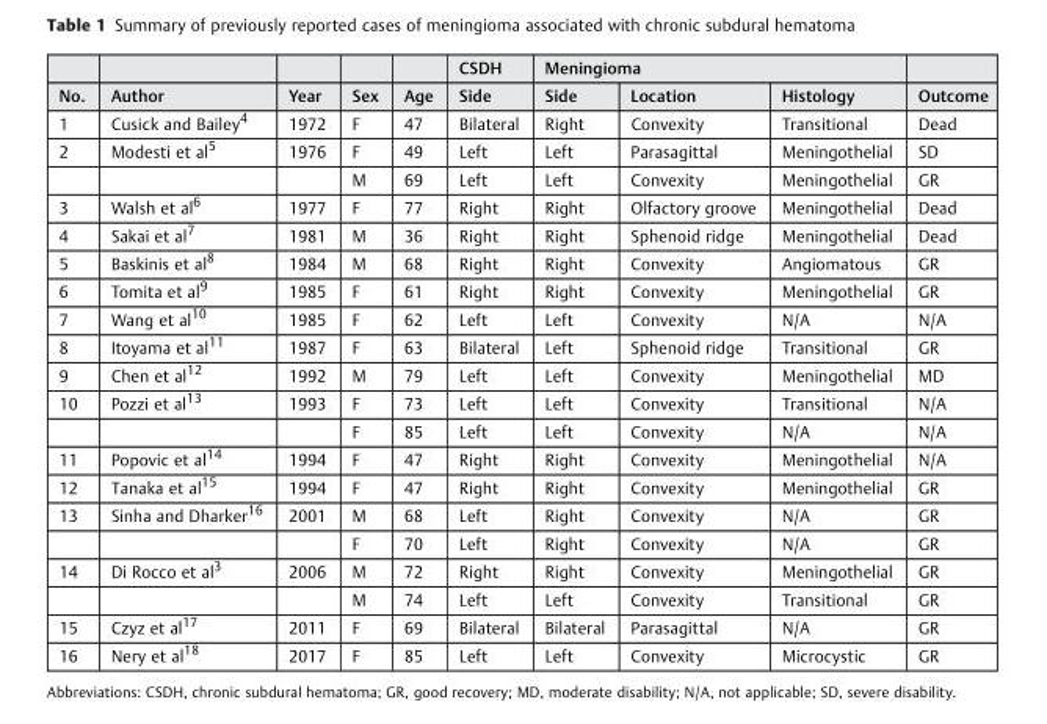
<table><thead><tr><td rowspan="2">No.</td><td rowspan="2">Author</td><td rowspan="2">Year</td><td rowspan="2">Sex</td><td rowspan="2">Age</td><td rowspan="2">CSDH Side</td><td colspan="3">Meningioma</td><td rowspan="2">Outcome</td></tr><tr><td>Side</td><td>Location</td><td>Histology</td></tr></thead><tbody><tr><td>1</td><td>Cusick and Bailey4</td><td>1972</td><td>F</td><td>47</td><td>Bilateral</td><td>Right</td><td>Convexity</td><td>Transitional</td><td>Dead</td></tr><tr><td rowspan="2">2</td><td>Modesti et al5</td><td>1976</td><td>F</td><td>49</td><td>Left</td><td>Left</td><td>Parasagittal</td><td>Meningothelial</td><td>SD</td></tr><tr><td></td><td></td><td>M</td><td>69</td><td>Left</td><td>Left</td><td>Convexity</td><td>Meningothelial</td><td>GR</td></tr><tr><td>3</td><td>Walsh et al6</td><td>1977</td><td>F</td><td>77</td><td>Right</td><td>Right</td><td>Olfactory groove</td><td>Meningothelial</td><td>Dead</td></tr><tr><td>4</td><td>Sakai et al7</td><td>1981</td><td>M</td><td>36</td><td>Right</td><td>Right</td><td>Sphenoid ridge</td><td>Meningothelial</td><td>Dead</td></tr><tr><td>5</td><td>Baskinis et al8</td><td>1984</td><td>M</td><td>68</td><td>Right</td><td>Right</td><td>Convexity</td><td>Angiomatous</td><td>GR</td></tr><tr><td>6</td><td>Tomita et al9</td><td>1985</td><td>F</td><td>61</td><td>Right</td><td>Right</td><td>Convexity</td><td>Meningothelial</td><td>GR</td></tr><tr><td>7</td><td>Wang et al10</td><td>1985</td><td>F</td><td>62</td><td>Left</td><td>Left</td><td>Convexity</td><td>N/A</td><td>N/A</td></tr><tr><td>8</td><td>Itoyama et al11</td><td>1987</td><td>F</td><td>63</td><td>Bilateral</td><td>Left</td><td>Sphenoid ridge</td><td>Transitional</td><td>GR</td></tr><tr><td>9</td><td>Chen et al12</td><td>1992</td><td>M</td><td>79</td><td>Left</td><td>Left</td><td>Convexity</td><td>Meningothelial</td><td>MD</td></tr><tr><td rowspan="2">10</td><td>Pozzi et al13</td><td>1993</td><td>F</td><td>73</td><td>Left</td><td>Left</td><td>Convexity</td><td>Transitional</td><td>N/A</td></tr><tr><td></td><td></td><td>F</td><td>85</td><td>Left</td><td>Left</td><td>Convexity</td><td>N/A</td><td>N/A</td></tr><tr><td>11</td><td>Popovic et al14</td><td>1994</td><td>F</td><td>47</td><td>Right</td><td>Right</td><td>Convexity</td><td>Meningothelial</td><td>N/A</td></tr><tr><td>12</td><td>Tanaka et al15</td><td>1994</td><td>F</td><td>47</td><td>Right</td><td>Right</td><td>Convexity</td><td>Meningothelial</td><td>GR</td></tr><tr><td rowspan="2">13</td><td>Sinha and Dharker16</td><td>2001</td><td>M</td><td>68</td><td>Left</td><td>Right</td><td>Convexity</td><td>N/A</td><td>GR</td></tr><tr><td></td><td></td><td>F</td><td>70</td><td>Left</td><td>Right</td><td>Convexity</td><td>N/A</td><td>GR</td></tr><tr><td rowspan="2">14</td><td>Di Rocco et al3</td><td>2006</td><td>M</td><td>72</td><td>Right</td><td>Right</td><td>Convexity</td><td>Meningothelial</td><td>GR</td></tr><tr><td></td><td></td><td>M</td><td>74</td><td>Left</td><td>Left</td><td>Convexity</td><td>Transitional</td><td>GR</td></tr><tr><td>15</td><td>Czyz et al17</td><td>2011</td><td>F</td><td>69</td><td>Bilateral</td><td>Bilateral</td><td>Parasagittal</td><td>N/A</td><td>GR</td></tr><tr><td>16</td><td>Nery et al18</td><td>2017</td><td>F</td><td>85</td><td>Left</td><td>Left</td><td>Convexity</td><td>Microcystic</td><td>GR</td></tr></tbody></table>